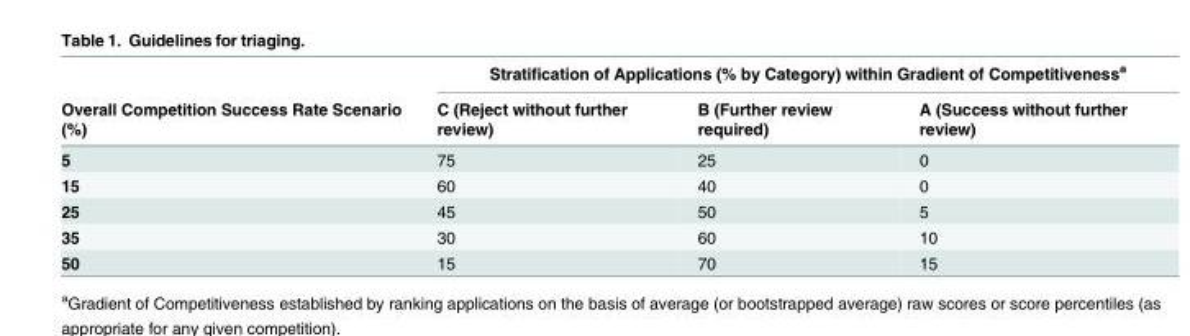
<table><thead><tr><td rowspan="2">Overall Competition Success Rate Scenario (%)</td><td colspan="3">Stratification of Applications (% by Category) within Gradient of Competitiveness<sup>a</sup></td></tr><tr><td>C (Reject without further review)</td><td>B (Further review required)</td><td>A (Success without further review)</td></tr></thead><tbody><tr><td>5</td><td>75</td><td>25</td><td>0</td></tr><tr><td>15</td><td>60</td><td>40</td><td>0</td></tr><tr><td>25</td><td>45</td><td>50</td><td>5</td></tr><tr><td>35</td><td>30</td><td>60</td><td>10</td></tr><tr><td>50</td><td>15</td><td>70</td><td>15</td></tr></tbody></table>